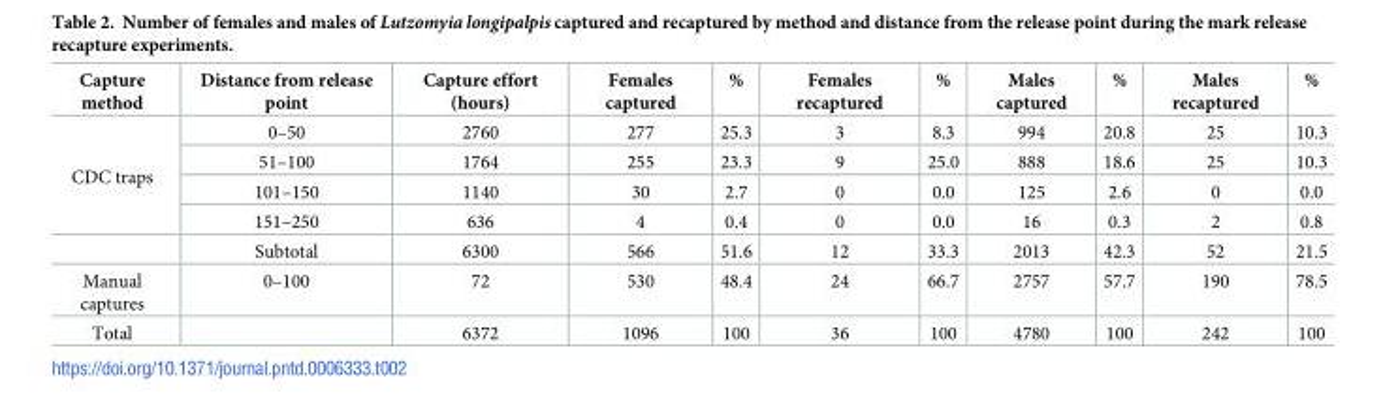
<table><thead><tr><td>Capture method</td><td>Distance from release point</td><td>Capture effort (hours)</td><td>Females captured</td><td>%</td><td>Females recaptured</td><td>%</td><td>Males captured</td><td>%</td><td>Males recaptured</td><td>%</td></tr></thead><tbody><tr><td rowspan="5">CDC traps</td><td>0–50</td><td>2760</td><td>277</td><td>25.3</td><td>3</td><td>8.3</td><td>994</td><td>20.8</td><td>25</td><td>10.3</td></tr><tr><td>51–100</td><td>1764</td><td>255</td><td>23.3</td><td>9</td><td>25.0</td><td>888</td><td>18.6</td><td>25</td><td>10.3</td></tr><tr><td>101–150</td><td>1140</td><td>30</td><td>2.7</td><td>0</td><td>0.0</td><td>125</td><td>2.6</td><td>0</td><td>0.0</td></tr><tr><td>151–250</td><td>636</td><td>4</td><td>0.4</td><td>0</td><td>0.0</td><td>16</td><td>0.3</td><td>2</td><td>0.8</td></tr><tr><td>Subtotal</td><td>6300</td><td>566</td><td>51.6</td><td>12</td><td>33.3</td><td>2013</td><td>42.3</td><td>52</td><td>21.5</td></tr><tr><td>Manual captures</td><td>0–100</td><td>72</td><td>530</td><td>48.4</td><td>24</td><td>66.7</td><td>2757</td><td>57.7</td><td>190</td><td>78.5</td></tr><tr><td>Total</td><td></td><td>6372</td><td>1096</td><td>100</td><td>36</td><td>100</td><td>4780</td><td>100</td><td>242</td><td>100</td></tr></tbody></table>